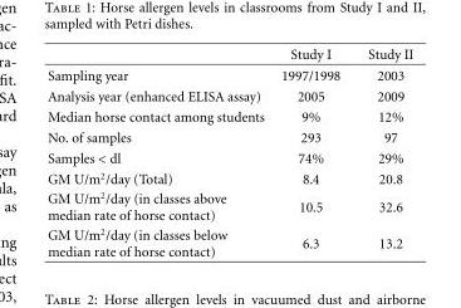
<table><thead><tr><td></td><td>Study I</td><td>Study II</td></tr></thead><tbody><tr><td>Sampling year</td><td>1997/1998</td><td>2003</td></tr><tr><td>Analysis year (enhanced ELISA assay)</td><td>2005</td><td>2009</td></tr><tr><td>Median horse contact among students</td><td>9%</td><td>12%</td></tr><tr><td>No. of samples</td><td>293</td><td>97</td></tr><tr><td>Samples &lt; dl</td><td>74%</td><td>29%</td></tr><tr><td>GM U/m<sup>2</sup>/day (Total)</td><td>8.4</td><td>20.8</td></tr><tr><td>GM U/m<sup>2</sup>/day (in classes above median rate of horse contact)</td><td>10.5</td><td>32.6</td></tr><tr><td>GM U/m<sup>2</sup>/day (in classes below median rate of horse contact)</td><td>6.3</td><td>13.2</td></tr></tbody></table>